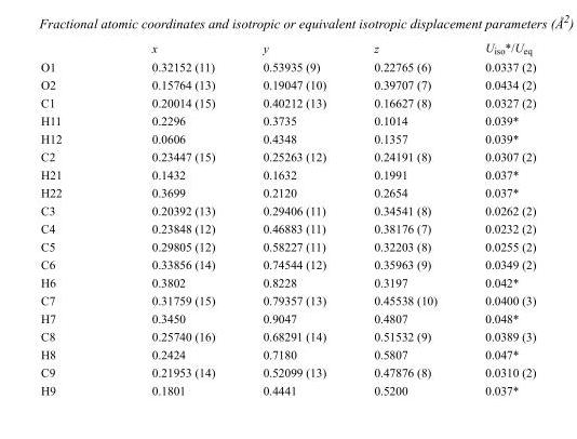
<table><thead><tr><td></td><td>x</td><td>y</td><td>z</td><td>U<sub>iso</sub>*/U<sub>eq</sub></td></tr></thead><tbody><tr><td>O1</td><td>0.32152 (11)</td><td>0.53935 (9)</td><td>0.22765 (6)</td><td>0.0337 (2)</td></tr><tr><td>O2</td><td>0.15764 (13)</td><td>0.19047 (10)</td><td>0.39707 (7)</td><td>0.0434 (2)</td></tr><tr><td>C1</td><td>0.20014 (15)</td><td>0.40212 (13)</td><td>0.16627 (8)</td><td>0.0327 (2)</td></tr><tr><td>H11</td><td>0.2296</td><td>0.3735</td><td>0.1014</td><td>0.039*</td></tr><tr><td>H12</td><td>0.0606</td><td>0.4348</td><td>0.1357</td><td>0.039*</td></tr><tr><td>C2</td><td>0.23447 (15)</td><td>0.25263 (12)</td><td>0.24191 (8)</td><td>0.0307 (2)</td></tr><tr><td>H21</td><td>0.1432</td><td>0.1632</td><td>0.1991</td><td>0.037*</td></tr><tr><td>H22</td><td>0.3699</td><td>0.2120</td><td>0.2654</td><td>0.037*</td></tr><tr><td>C3</td><td>0.20392 (13)</td><td>0.29406 (11)</td><td>0.34541 (8)</td><td>0.0262 (2)</td></tr><tr><td>C4</td><td>0.23848 (12)</td><td>0.46883 (11)</td><td>0.38176 (7)</td><td>0.0232 (2)</td></tr><tr><td>C5</td><td>0.29805 (12)</td><td>0.58227 (11)</td><td>0.32203 (8)</td><td>0.0255 (2)</td></tr><tr><td>C6</td><td>0.33856 (14)</td><td>0.74544 (12)</td><td>0.35963 (9)</td><td>0.0349 (2)</td></tr><tr><td>H6</td><td>0.3802</td><td>0.8228</td><td>0.3197</td><td>0.042*</td></tr><tr><td>C7</td><td>0.31759 (15)</td><td>0.79357 (13)</td><td>0.45538 (10)</td><td>0.0400 (3)</td></tr><tr><td>H7</td><td>0.3450</td><td>0.9047</td><td>0.4807</td><td>0.048*</td></tr><tr><td>C8</td><td>0.25740 (16)</td><td>0.68291 (14)</td><td>0.51532 (9)</td><td>0.0389 (3)</td></tr><tr><td>H8</td><td>0.2424</td><td>0.7180</td><td>0.5807</td><td>0.047*</td></tr><tr><td>C9</td><td>0.21953 (14)</td><td>0.52099 (13)</td><td>0.47876 (8)</td><td>0.0310 (2)</td></tr><tr><td>H9</td><td>0.1801</td><td>0.4441</td><td>0.5200</td><td>0.037*</td></tr></tbody></table>